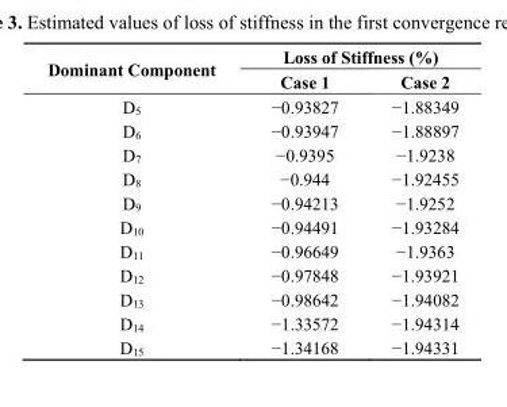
<table><thead><tr><td rowspan="2">Dominant Component</td><td colspan="2">Loss of Stiffness (%)</td></tr><tr><td>Case 1</td><td>Case 2</td></tr></thead><tbody><tr><td>D<sub>5</sub></td><td>−0.93827</td><td>−1.88349</td></tr><tr><td>D<sub>6</sub></td><td>−0.93947</td><td>−1.88897</td></tr><tr><td>D<sub>7</sub></td><td>−0.9395</td><td>−1.9238</td></tr><tr><td>D<sub>8</sub></td><td>−0.944</td><td>−1.92455</td></tr><tr><td>D<sub>9</sub></td><td>−0.94213</td><td>−1.9252</td></tr><tr><td>D<sub>10</sub></td><td>−0.94491</td><td>−1.93284</td></tr><tr><td>D<sub>11</sub></td><td>−0.96649</td><td>−1.9363</td></tr><tr><td>D<sub>12</sub></td><td>−0.97848</td><td>−1.93921</td></tr><tr><td>D<sub>13</sub></td><td>−0.98642</td><td>−1.94082</td></tr><tr><td>D<sub>14</sub></td><td>−1.33572</td><td>−1.94314</td></tr><tr><td>D<sub>15</sub></td><td>−1.34168</td><td>−1.94331</td></tr></tbody></table>